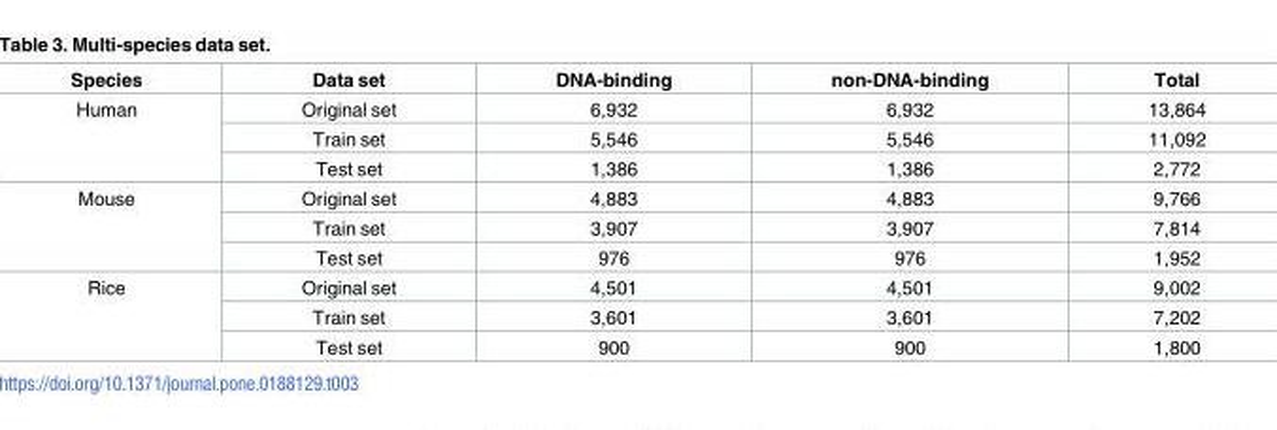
<table><thead><tr><td>Species</td><td>Data set</td><td>DNA-binding</td><td>non-DNA-binding</td><td>Total</td></tr></thead><tbody><tr><td rowspan="3">Human</td><td>Original set</td><td>6,932</td><td>6,932</td><td>13,864</td></tr><tr><td>Train set</td><td>5,546</td><td>5,546</td><td>11,092</td></tr><tr><td>Test set</td><td>1,386</td><td>1,386</td><td>2,772</td></tr><tr><td rowspan="3">Mouse</td><td>Original set</td><td>4,883</td><td>4,883</td><td>9,766</td></tr><tr><td>Train set</td><td>3,907</td><td>3,907</td><td>7,814</td></tr><tr><td>Test set</td><td>976</td><td>976</td><td>1,952</td></tr><tr><td rowspan="3">Rice</td><td>Original set</td><td>4,501</td><td>4,501</td><td>9,002</td></tr><tr><td>Train set</td><td>3,601</td><td>3,601</td><td>7,202</td></tr><tr><td>Test set</td><td>900</td><td>900</td><td>1,800</td></tr></tbody></table>